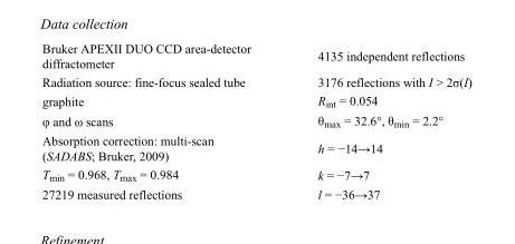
<table><tbody><tr><td>Bruker APEXII DUO CCD area-detector diffractometer</td><td>4135 independent reflections</td></tr><tr><td>Radiation source: fine-focus sealed tube</td><td>3176 reflections with I &gt; 2σ(I)</td></tr><tr><td>graphite</td><td>R<sub>int</sub> = 0.054</td></tr><tr><td>φ and ω scans</td><td>θ<sub>max</sub> = 32.6°, θ<sub>min</sub> = 2.2°</td></tr><tr><td>Absorption correction: multi-scan (SADABS; Bruker, 2009)</td><td>h = −14→14</td></tr><tr><td>T<sub>min</sub> = 0.968, T<sub>max</sub> = 0.984</td><td>k = −7→7</td></tr><tr><td>27219 measured reflections</td><td>l = −36→37</td></tr></tbody></table>